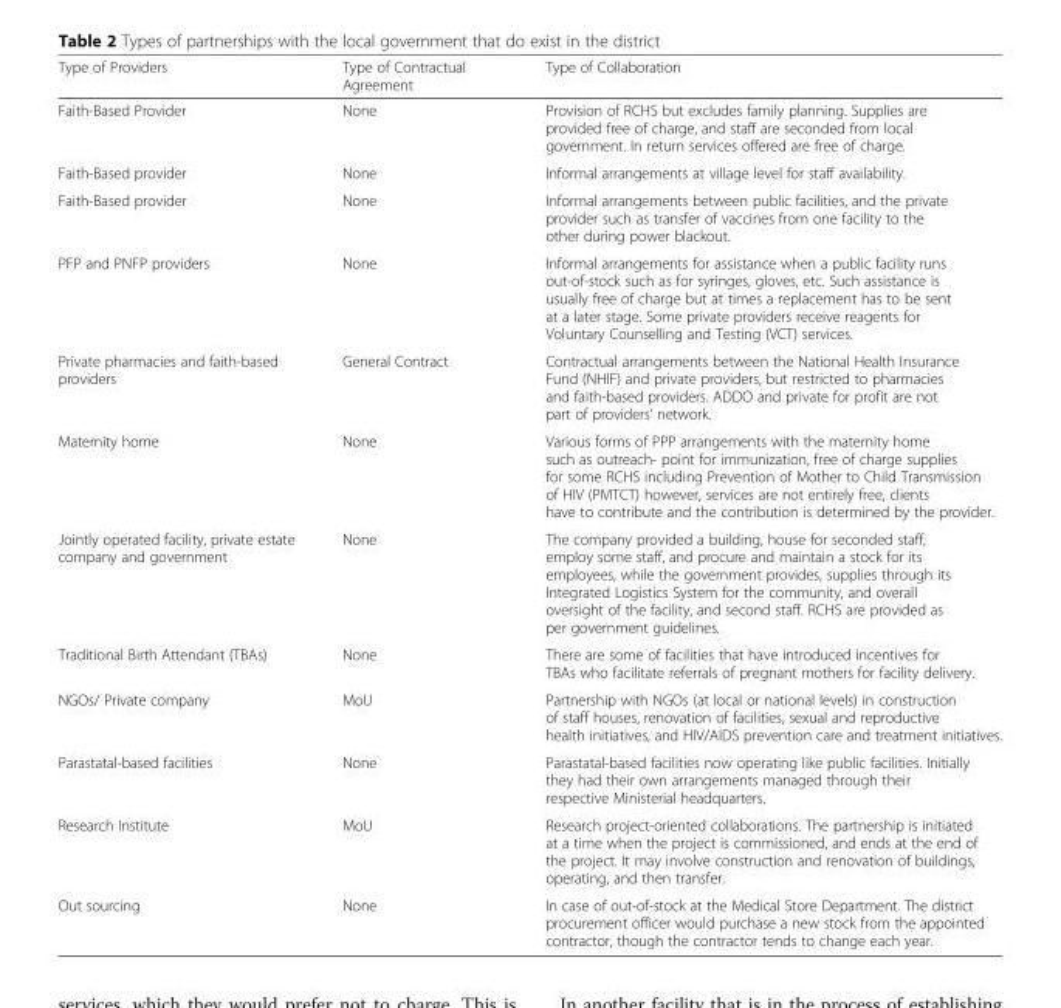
<table><thead><tr><td>Type of Providers</td><td>Type of Contractual Agreement</td><td>Type of Collaboration</td></tr></thead><tbody><tr><td>Faith-Based Provider</td><td>None</td><td>Provision of RCHS but excludes family planning. Supplies are provided free of charge, and staff are seconded from local government. In return services offered are free of charge.</td></tr><tr><td>Faith-Based provider</td><td>None</td><td>Informal arrangements at village level for staff availability.</td></tr><tr><td>Faith-Based provider</td><td>None</td><td>Informal arrangements between public facilities, and the private provider such as transfer of vaccines from one facility to the other during power blackout.</td></tr><tr><td>PFP and PNFP providers</td><td>None</td><td>Informal arrangements for assistance when a public facility runs out-of-stock such as for syringes, gloves, etc. Such assistance is usually free of charge but at times a replacement has to be sent at a later stage. Some private providers receive reagents for Voluntary Counselling and Testing (VCT) services.</td></tr><tr><td>Private pharmacies and faith-based providers</td><td>General Contract</td><td>Contractual arrangements between the National Health Insurance Fund (NHIF) and private providers, but restricted to pharmacies and faith-based providers. ADDO and private for profit are not part of providers’ network.</td></tr><tr><td>Maternity home</td><td>None</td><td>Various forms of PPP arrangements with the maternity home such as outreach- point for immunization, free of charge supplies for some RCHS including Prevention of Mother to Child Transmission of HIV (PMTCT) however, services are not entirely free, clients have to contribute and the contribution is determined by the provider.</td></tr><tr><td>Jointly operated facility, private estate company and government</td><td>None</td><td>The company provided a building, house for seconded staff, employ some staff, and procure and maintain a stock for its employees, while the government provides, supplies through its Integrated Logistics System for the community, and overall oversight of the facility, and second staff. RCHS are provided as per government guidelines.</td></tr><tr><td>Traditional Birth Attendant (TBAs)</td><td>None</td><td>There are some of facilities that have introduced incentives for TBAs who facilitate referrals of pregnant mothers for facility delivery.</td></tr><tr><td>NGOs/ Private company</td><td>MoU</td><td>Partnership with NGOs (at local or national levels) in construction of staff houses, renovation of facilities, sexual and reproductive health initiatives, and HIV/AIDS prevention care and treatment initiatives.</td></tr><tr><td>Parastatal-based facilities</td><td>None</td><td>Parastatal-based facilities now operating like public facilities. Initially they had their own arrangements managed through their respective Ministerial headquarters.</td></tr><tr><td>Research Institute</td><td>MoU</td><td>Research project-oriented collaborations. The partnership is initiated at a time when the project is commissioned, and ends at the end of the project. It may involve construction and renovation of buildings, operating, and then transfer.</td></tr><tr><td>Out sourcing</td><td>None</td><td>In case of out-of-stock at the Medical Store Department. The district procurement officer would purchase a new stock from the appointed contractor, though the contractor tends to change each year.</td></tr></tbody></table>